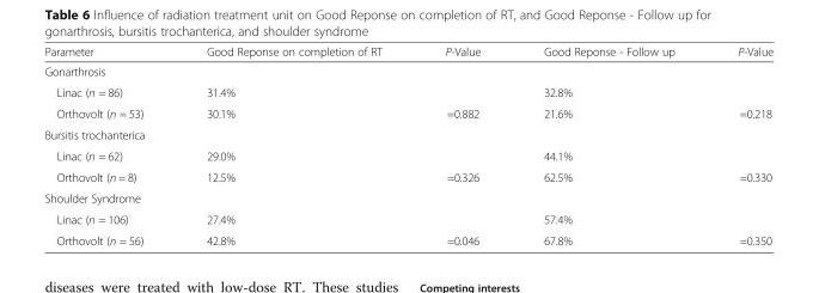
<table><thead><tr><td>Parameter</td><td>Good Reponse on completion of RT</td><td>P-Value</td><td>Good Reponse - Follow up</td><td>P-Value</td></tr></thead><tbody><tr><td colspan="5">Gonarthrosis</td></tr><tr><td>Linac (n = 86)</td><td>31.4%</td><td></td><td>32.8%</td><td></td></tr><tr><td>Orthovolt (n = 53)</td><td>30.1%</td><td>=0.882</td><td>21.6%</td><td>=0.218</td></tr><tr><td colspan="5">Bursitis trochanterica</td></tr><tr><td>Linac (n = 62)</td><td>29.0%</td><td></td><td>44.1%</td><td></td></tr><tr><td>Orthovolt (n = 8)</td><td>12.5%</td><td>=0.326</td><td>62.5%</td><td>=0.330</td></tr><tr><td colspan="5">Shoulder Syndrome</td></tr><tr><td>Linac (n = 106)</td><td>27.4%</td><td></td><td>57.4%</td><td></td></tr><tr><td>Orthovolt (n = 56)</td><td>42.8%</td><td>=0.046</td><td>67.8%</td><td>=0.350</td></tr></tbody></table>